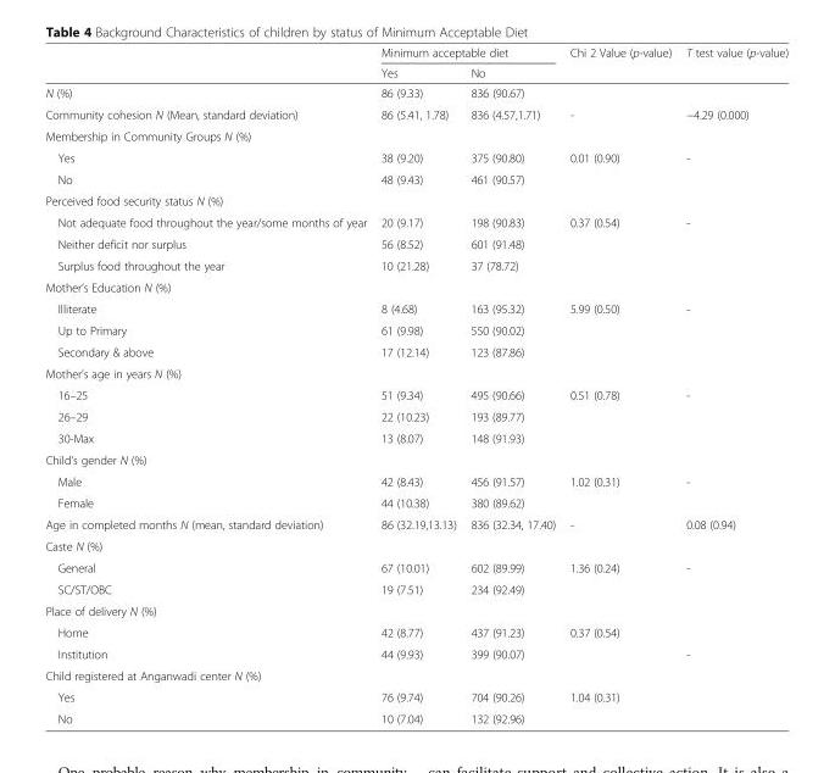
<table><thead><tr><td rowspan="2"></td><td colspan="2">Minimum acceptable diet</td><td rowspan="2">Chi 2 Value (p-value)</td><td rowspan="2">T test value (p-value)</td></tr><tr><td>Yes</td><td>No</td></tr></thead><tbody><tr><td>N (%)</td><td>86 (9.33)</td><td>836 (90.67)</td><td></td><td></td></tr><tr><td>Community cohesion N (Mean, standard deviation)</td><td>86 (5.41, 1.78)</td><td>836 (4.57,1.71)</td><td>-</td><td>−4.29 (0.000)</td></tr><tr><td colspan="5">Membership in Community Groups N (%)</td></tr><tr><td>Yes</td><td>38 (9.20)</td><td>375 (90.80)</td><td rowspan="2">0.01 (0.90)</td><td>-</td></tr><tr><td>No</td><td>48 (9.43)</td><td>461 (90.57)</td><td></td></tr><tr><td colspan="5">Perceived food security status N (%)</td></tr><tr><td>Not adequate food throughout the year/some months of year</td><td>20 (9.17)</td><td>198 (90.83)</td><td rowspan="3">0.37 (0.54)</td><td>-</td></tr><tr><td>Neither deficit nor surplus</td><td>56 (8.52)</td><td>601 (91.48)</td><td></td></tr><tr><td>Surplus food throughout the year</td><td>10 (21.28)</td><td>37 (78.72)</td><td></td></tr><tr><td colspan="5">Mother’s Education N (%)</td></tr><tr><td>Illiterate</td><td>8 (4.68)</td><td>163 (95.32)</td><td rowspan="3">5.99 (0.50)</td><td>-</td></tr><tr><td>Up to Primary</td><td>61 (9.98)</td><td>550 (90.02)</td><td></td></tr><tr><td>Secondary &amp; above</td><td>17 (12.14)</td><td>123 (87.86)</td><td></td></tr><tr><td colspan="5">Mother’s age in years N (%)</td></tr><tr><td>16–25</td><td>51 (9.34)</td><td>495 (90.66)</td><td rowspan="3">0.51 (0.78)</td><td>-</td></tr><tr><td>26–29</td><td>22 (10.23)</td><td>193 (89.77)</td><td></td></tr><tr><td>30-Max</td><td>13 (8.07)</td><td>148 (91.93)</td><td></td></tr><tr><td colspan="5">Child’s gender N (%)</td></tr><tr><td>Male</td><td>42 (8.43)</td><td>456 (91.57)</td><td rowspan="2">1.02 (0.31)</td><td>-</td></tr><tr><td>Female</td><td>44 (10.38)</td><td>380 (89.62)</td><td></td></tr><tr><td>Age in completed months N (mean, standard deviation)</td><td>86 (32.19,13.13)</td><td>836 (32.34, 17.40)</td><td>-</td><td>0.08 (0.94)</td></tr><tr><td colspan="5">Caste N (%)</td></tr><tr><td>General</td><td>67 (10.01)</td><td>602 (89.99)</td><td rowspan="2">1.36 (0.24)</td><td>-</td></tr><tr><td>SC/ST/OBC</td><td>19 (7.51)</td><td>234 (92.49)</td><td></td></tr><tr><td colspan="5">Place of delivery N (%)</td></tr><tr><td>Home</td><td>42 (8.77)</td><td>437 (91.23)</td><td rowspan="2">0.37 (0.54)</td><td></td></tr><tr><td>Institution</td><td>44 (9.93)</td><td>399 (90.07)</td><td>-</td></tr><tr><td colspan="5">Child registered at Anganwadi center N (%)</td></tr><tr><td>Yes</td><td>76 (9.74)</td><td>704 (90.26)</td><td rowspan="2">1.04 (0.31)</td><td></td></tr><tr><td>No</td><td>10 (7.04)</td><td>132 (92.96)</td><td></td></tr></tbody></table>